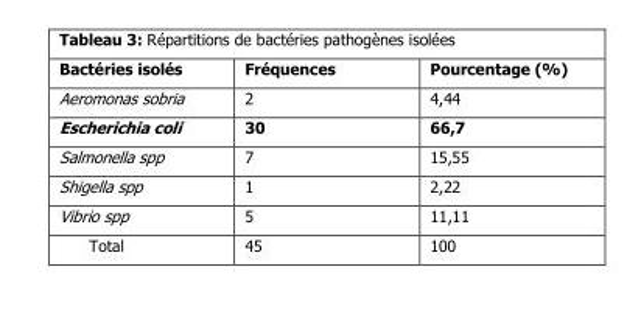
<table><thead><tr><td>Bactéries isolés</td><td>Fréquences</td><td>Pourcentage (%)</td></tr></thead><tbody><tr><td>Aeromonas sobria</td><td>2</td><td>4,44</td></tr><tr><td>Escherichia coli</td><td>30</td><td>66,7</td></tr><tr><td>Salmonella spp</td><td>7</td><td>15,55</td></tr><tr><td>Shigella spp</td><td>1</td><td>2,22</td></tr><tr><td>Vibrio spp</td><td>5</td><td>11,11</td></tr><tr><td>Total</td><td>45</td><td>100</td></tr></tbody></table>